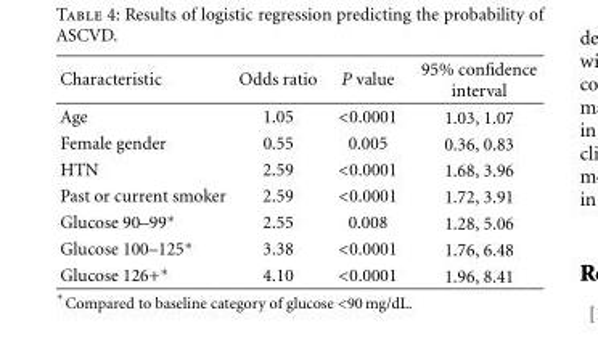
<table><thead><tr><td>Characteristic</td><td>Odds ratio</td><td>P value</td><td>95% confidence interval</td></tr></thead><tbody><tr><td>Age</td><td>1.05</td><td>&lt;0.0001</td><td>1.03, 1.07</td></tr><tr><td>Female gender</td><td>0.55</td><td>0.005</td><td>0.36, 0.83</td></tr><tr><td>HTN</td><td>2.59</td><td>&lt;0.0001</td><td>1.68, 3.96</td></tr><tr><td>Past or current smoker</td><td>2.59</td><td>&lt;0.0001</td><td>1.72, 3.91</td></tr><tr><td>Glucose 90–99∗</td><td>2.55</td><td>0.008</td><td>1.28, 5.06</td></tr><tr><td>Glucose 100–125∗</td><td>3.38</td><td>&lt;0.0001</td><td>1.76, 6.48</td></tr><tr><td>Glucose 126+∗</td><td>4.10</td><td>&lt;0.0001</td><td>1.96, 8.41</td></tr></tbody></table>